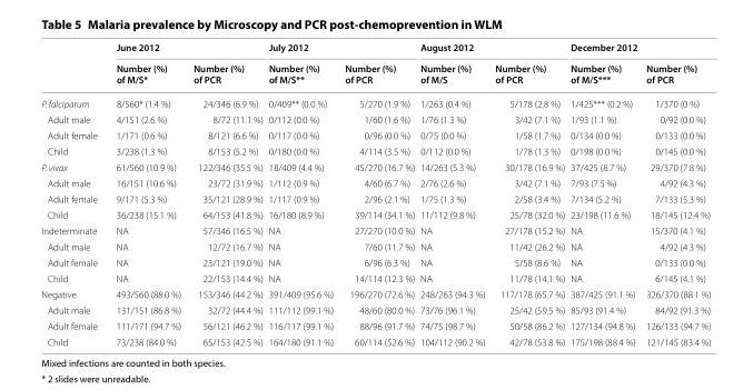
<table><thead><tr><td rowspan="2"></td><td colspan="2">June 2012</td><td colspan="2">July 2012</td><td colspan="2">August 2012</td><td colspan="2">December 2012</td></tr><tr><td>Number (%) of M/S*</td><td>Number (%) of PCR</td><td>Number (%) of M/S**</td><td>Number (%) of PCR</td><td>Number (%) of M/S</td><td>Number (%) of PCR</td><td>Number (%) of M/S***</td><td>Number (%) of PCR</td></tr></thead><tbody><tr><td>P. falciparum</td><td>8/560* (1.4 %)</td><td>24/346 (6.9 %)</td><td>0/409** (0.0 %)</td><td>5/270 (1.9 %)</td><td>1/263 (0.4 %)</td><td>5/178 (2.8 %)</td><td>1/425*** (0.2 %)</td><td>1/370 (0 %)</td></tr><tr><td>Adult male</td><td>4/151 (2.6 %)</td><td>8/72 (11.1 %)</td><td>0/112 (0.0 %)</td><td>1/60 (1.6 %)</td><td>1/76 (1.3 %)</td><td>3/42 (7.1 %)</td><td>1/93 (1.1 %)</td><td>0/92 (0.0 %)</td></tr><tr><td>Adult female</td><td>1/171 (0.6 %)</td><td>8/121 (6.6 %)</td><td>0/117 (0.0 %)</td><td>0/96 (0.0 %)</td><td>0/75 (0.0 %)</td><td>1/58 (1.7 %)</td><td>0/134 (0.0 %)</td><td>0/133 (0.0 %)</td></tr><tr><td>Child</td><td>3/238 (1.3 %)</td><td>8/153 (5.2 %)</td><td>0/180 (0.0 %)</td><td>4/114 (3.5 %)</td><td>0/112 (0.0 %)</td><td>1/78 (1.3 %)</td><td>0/198 (0.0 %)</td><td>0/145 (0.0 %)</td></tr><tr><td>P. vivax</td><td>61/560 (10.9 %)</td><td>122/346 (35.5 %)</td><td>18/409 (4.4 %)</td><td>45/270 (16.7 %)</td><td>14/263 (5.3 %)</td><td>30/178 (16.9 %)</td><td>37/425 (8.7 %)</td><td>29/370 (7.8 %)</td></tr><tr><td>Adult male</td><td>16/151 (10.6 %)</td><td>23/72 (31.9 %)</td><td>1/112 (0.9 %)</td><td>4/60 (6.7 %)</td><td>2/76 (2.6 %)</td><td>3/42 (7.1 %)</td><td>7/93 (7.5 %)</td><td>4/92 (4.3 %)</td></tr><tr><td>Adult female</td><td>9/171 (5.3 %)</td><td>35/121 (28.9 %)</td><td>1/117 (0.9 %)</td><td>2/96 (2.1 %)</td><td>1/75 (1.3 %)</td><td>2/58 (3.4 %)</td><td>7/134 (5.2 %)</td><td>7/133 (5.3 %)</td></tr><tr><td>Child</td><td>36/238 (15.1 %)</td><td>64/153 (41.8 %)</td><td>16/180 (8.9 %)</td><td>39/114 (34.1 %)</td><td>11/112 (9.8 %)</td><td>25/78 (32.0 %)</td><td>23/198 (11.6 %)</td><td>18/145 (12.4 %)</td></tr><tr><td>Indeterminate</td><td>NA</td><td>57/346 (16.5 %)</td><td>NA</td><td>27/270 (10.0 %)</td><td>NA</td><td>27/178 (15.2 %)</td><td>NA</td><td>15/370 (4.1 %)</td></tr><tr><td>Adult male</td><td>NA</td><td>12/72 (16.7 %)</td><td>NA</td><td>7/60 (11.7 %)</td><td>NA</td><td>11/42 (26.2 %)</td><td>NA</td><td>4/92 (4.3 %)</td></tr><tr><td>Adult female</td><td>NA</td><td>23/121 (19.0 %)</td><td>NA</td><td>6/96 (6.3 %)</td><td>NA</td><td>5/58 (8.6 %)</td><td>NA</td><td>0/133 (0.0 %)</td></tr><tr><td>Child</td><td>NA</td><td>22/153 (14.4 %)</td><td>NA</td><td>14/114 (12.3 %)</td><td>NA</td><td>11/78 (14.1 %)</td><td>NA</td><td>6/145 (4.1 %)</td></tr><tr><td>Negative</td><td>493/560 (88.0 %)</td><td>153/346 (44.2 %)</td><td>391/409 (95.6 %)</td><td>196/270 (72.6 %)</td><td>248/263 (94.3 %)</td><td>117/178 (65.7 %)</td><td>387/425 (91.1 %)</td><td>326/370 (88.1 %)</td></tr><tr><td>Adult male</td><td>131/151 (86.8 %)</td><td>32/72 (44.4 %)</td><td>111/112 (99.1 %)</td><td>48/60 (80.0 %)</td><td>73/76 (96.1 %)</td><td>25/42 (59.5 %)</td><td>85/93 (91.4 %)</td><td>84/92 (91.3 %)</td></tr><tr><td>Adult female</td><td>111/171 (94.7 %)</td><td>56/121 (46.2 %)</td><td>116/117 (99.1 %)</td><td>88/96 (91.7 %)</td><td>74/75 (98.7 %)</td><td>50/58 (86.2 %)</td><td>127/134 (94.8 %)</td><td>126/133 (94.7 %)</td></tr><tr><td>Child</td><td>73/238 (84.0 %)</td><td>65/153 (42.5 %)</td><td>164/180 (91.1 %)</td><td>60/114 (52.6 %)</td><td>104/112 (90.2 %)</td><td>42/78 (53.8 %)</td><td>175/198 (88.4 %)</td><td>121/145 (83.4 %)</td></tr></tbody></table>